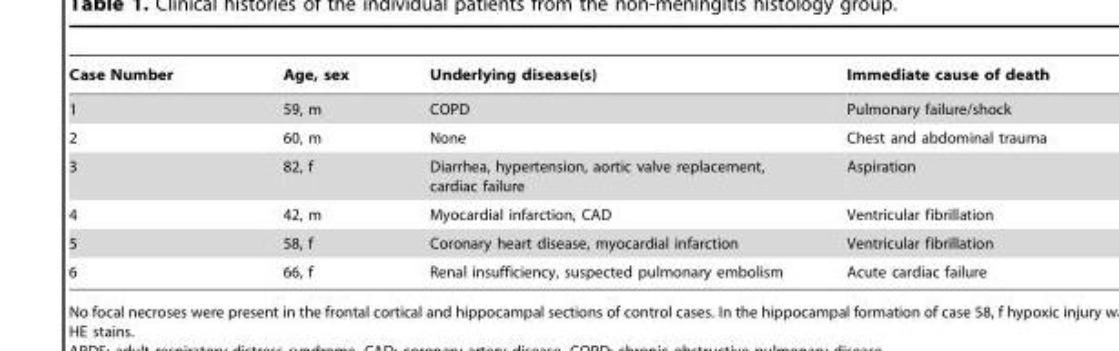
<table><thead><tr><td>Case Number</td><td>Age, sex</td><td>Underlying disease(s)</td><td>Immediate cause of death</td></tr></thead><tbody><tr><td>1</td><td>59, m</td><td>COPD</td><td>Pulmonary failure/shock</td></tr><tr><td>2</td><td>60, m</td><td>None</td><td>Chest and abdominal trauma</td></tr><tr><td>3</td><td>82, f</td><td>Diarrhea, hypertension, aortic valve replacement, cardiac failure</td><td>Aspiration</td></tr><tr><td>4</td><td>42, m</td><td>Myocardial infarction, CAD</td><td>Ventricular fibrillation</td></tr><tr><td>5</td><td>58, f</td><td>Coronary heart disease, myocardial infarction</td><td>Ventricular fibrillation</td></tr><tr><td>6</td><td>66, f</td><td>Renal insufficiency, suspected pulmonary embolism</td><td>Acute cardiac failure</td></tr></tbody></table>